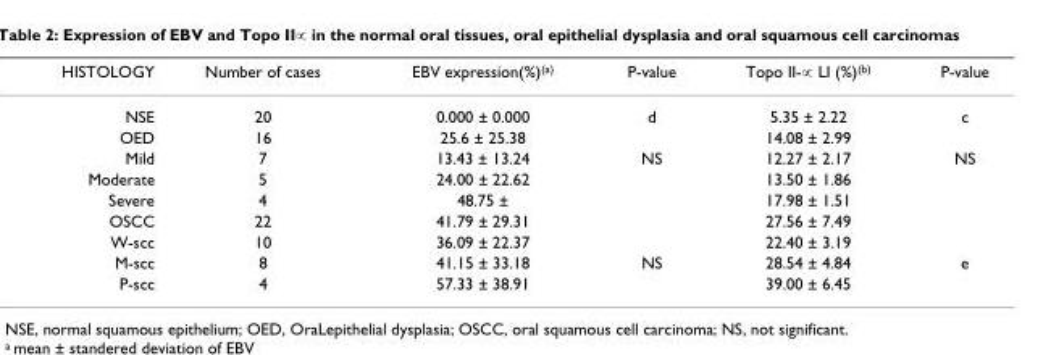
<table><thead><tr><td>HISTOLOGY</td><td>Number of cases</td><td>EBV expression(%)<sup>(a)</sup></td><td>P-value</td><td>Topo II-∝ LI (%)<sup>(b)</sup></td><td>P-value</td></tr></thead><tbody><tr><td>NSE</td><td>20</td><td>0.000 ± 0.000</td><td>d</td><td>5.35 ± 2.22</td><td>c</td></tr><tr><td>OED</td><td>16</td><td>25.6 ± 25.38</td><td></td><td>14.08 ± 2.99</td><td></td></tr><tr><td>Mild</td><td>7</td><td>13.43 ± 13.24</td><td>NS</td><td>12.27 ± 2.17</td><td>NS</td></tr><tr><td>Moderate</td><td>5</td><td>24.00 ± 22.62</td><td></td><td>13.50 ± 1.86</td><td></td></tr><tr><td>Severe</td><td>4</td><td>48.75 ±</td><td></td><td>17.98 ± 1.51</td><td></td></tr><tr><td>OSCC</td><td>22</td><td>41.79 ± 29.31</td><td></td><td>27.56 ± 7.49</td><td></td></tr><tr><td>W-scc</td><td>10</td><td>36.09 ± 22.37</td><td></td><td>22.40 ± 3.19</td><td></td></tr><tr><td>M-scc</td><td>8</td><td>41.15 ± 33.18</td><td>NS</td><td>28.54 ± 4.84</td><td>e</td></tr><tr><td>P-scc</td><td>4</td><td>57.33 ± 38.91</td><td></td><td>39.00 ± 6.45</td><td></td></tr></tbody></table>